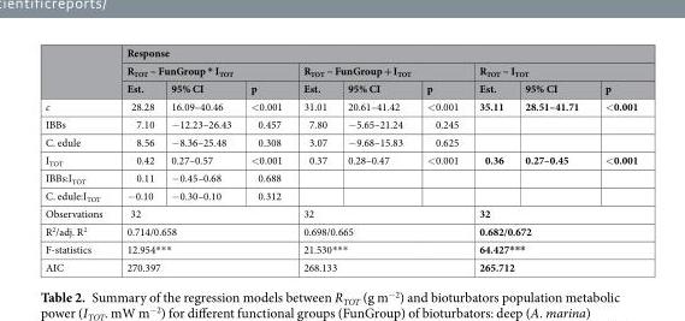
<table><thead><tr><td rowspan="3"></td><td colspan="9">Response</td></tr><tr><td colspan="3">R<sub>TOT</sub> ~ FunGroup * I<sub>TOT</sub></td><td colspan="3">R<sub>TOT</sub> ~ FunGroup + I<sub>TOT</sub></td><td colspan="3">R<sub>TOT</sub> ~ I<sub>TOT</sub></td></tr><tr><td>Est.</td><td>95% CI</td><td>p</td><td>Est.</td><td>95% CI</td><td>p</td><td>Est.</td><td>95% CI</td><td>p</td></tr></thead><tbody><tr><td>c</td><td>28.28</td><td>16.09–40.46</td><td>&lt;0.001</td><td>31.01</td><td>20.61–41.42</td><td>&lt;0.001</td><td>35.11</td><td>28.51–41.71</td><td>&lt;0.001</td></tr><tr><td>IBBs</td><td>7.10</td><td>−12.23–26.43</td><td>0.457</td><td>7.80</td><td>−5.65–21.24</td><td>0.245</td><td></td><td></td><td></td></tr><tr><td>C. edule</td><td>8.56</td><td>−8.36–25.48</td><td>0.308</td><td>3.07</td><td>−9.68–15.83</td><td>0.625</td><td></td><td></td><td></td></tr><tr><td>I<sub>TOT</sub></td><td>0.42</td><td>0.27–0.57</td><td>&lt;0.001</td><td>0.37</td><td>0.28–0.47</td><td>&lt;0.001</td><td>0.36</td><td>0.27–0.45</td><td>&lt;0.001</td></tr><tr><td>IBBs:I<sub>TOT</sub></td><td>0.11</td><td>−0.45–0.68</td><td>0.688</td><td></td><td></td><td></td><td></td><td></td><td></td></tr><tr><td>C. edule:I<sub>TOT</sub></td><td>−0.10</td><td>−0.30–0.10</td><td>0.312</td><td></td><td></td><td></td><td></td><td></td><td></td></tr><tr><td>Observations</td><td colspan="3">32</td><td colspan="3">32</td><td colspan="3">32</td></tr><tr><td>R<sup>2</sup>/adj. R<sup>2</sup></td><td colspan="3">0.714/0.658</td><td colspan="3">0.698/0.665</td><td colspan="3">0.682/0.672</td></tr><tr><td>F-statistics</td><td colspan="3">12.954***</td><td colspan="3">21.530***</td><td colspan="3">64.427***</td></tr><tr><td>AIC</td><td colspan="3">270.397</td><td colspan="3">268.133</td><td colspan="3">265.712</td></tr></tbody></table>